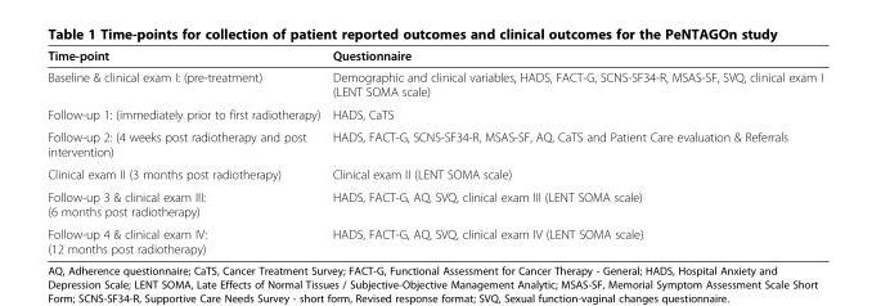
<table><thead><tr><td>Time-point</td><td>Questionnaire</td></tr></thead><tbody><tr><td>Baseline &amp; clinical exam I: (pre-treatment)</td><td>Demographic and clinical variables, HADS, FACT-G, SCNS-SF34-R, MSAS-SF, SVQ, clinical exam I (LENT SOMA scale)</td></tr><tr><td>Follow-up 1: (immediately prior to first radiotherapy)</td><td>HADS, CaTS</td></tr><tr><td>Follow-up 2: (4 weeks post radiotherapy and post intervention)</td><td>HADS, FACT-G, SCNS-SF34-R, MSAS-SF, AQ, CaTS and Patient Care evaluation &amp; Referrals</td></tr><tr><td>Clinical exam II (3 months post radiotherapy)</td><td>Clinical exam II (LENT SOMA scale)</td></tr><tr><td>Follow-up 3 &amp; clinical exam III: (6 months post radiotherapy)</td><td>HADS, FACT-G, AQ, SVQ, clinical exam III (LENT SOMA scale)</td></tr><tr><td>Follow-up 4 &amp; clinical exam IV: (12 months post radiotherapy)</td><td>HADS, FACT-G, AQ, SVQ, clinical exam IV (LENT SOMA scale)</td></tr></tbody></table>